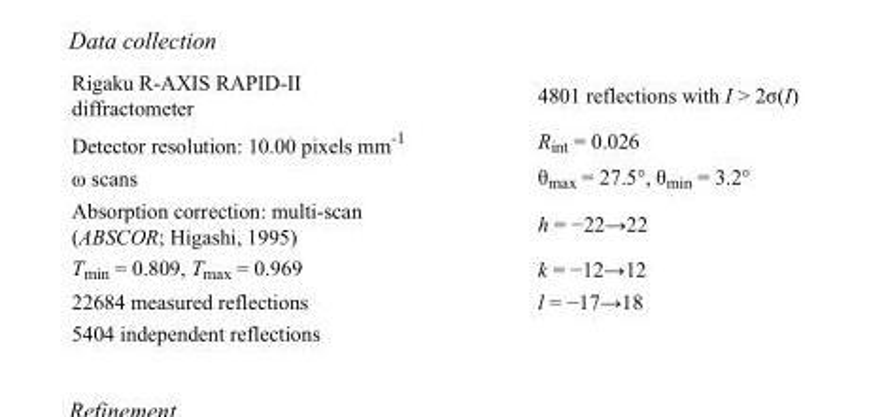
<table><tbody><tr><td>Rigaku R-AXIS RAPID-II diffractometer</td><td>4801 reflections with I &gt; 2σ(I)</td></tr><tr><td>Detector resolution: 10.00 pixels mm<sup>-1</sup></td><td>R<sub>int</sub> = 0.026</td></tr><tr><td>ω scans</td><td>θ<sub>max</sub> = 27.5°, θ<sub>min</sub> = 3.2°</td></tr><tr><td>Absorption correction: multi-scan (ABSCOR; Higashi, 1995)</td><td>h = −22→22</td></tr><tr><td>T<sub>min</sub> = 0.809, T<sub>max</sub> = 0.969</td><td>k = −12→12</td></tr><tr><td>22684 measured reflections</td><td>l = −17→18</td></tr><tr><td>5404 independent reflections</td><td></td></tr></tbody></table>